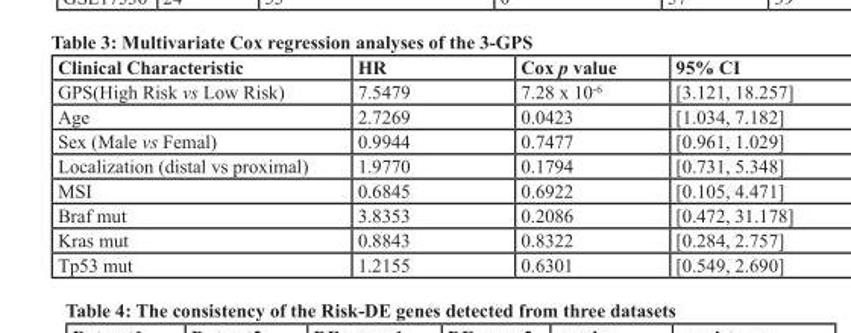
<table><thead><tr><td>Clinical Characteristic</td><td>HR</td><td>Cox p value</td><td>95% CI</td></tr></thead><tbody><tr><td>GPS(High Risk vs Low Risk)</td><td>7.5479</td><td>7.28 x 10-6</td><td>[3.121, 18.257]</td></tr><tr><td>Age</td><td>2.7269</td><td>0.0423</td><td>[1.034, 7.182]</td></tr><tr><td>Sex (Male vs Femal)</td><td>0.9944</td><td>0.7477</td><td>[0.961, 1.029]</td></tr><tr><td>Localization (distal vs proximal)</td><td>1.9770</td><td>0.1794</td><td>[0.731, 5.348]</td></tr><tr><td>MSI</td><td>0.6845</td><td>0.6922</td><td>[0.105, 4.471]</td></tr><tr><td>Braf mut</td><td>3.8353</td><td>0.2086</td><td>[0.472, 31.178]</td></tr><tr><td>Kras mut</td><td>0.8843</td><td>0.8322</td><td>[0.284, 2.757]</td></tr><tr><td>Tp53 mut</td><td>1.2155</td><td>0.6301</td><td>[0.549, 2.690]</td></tr></tbody></table>